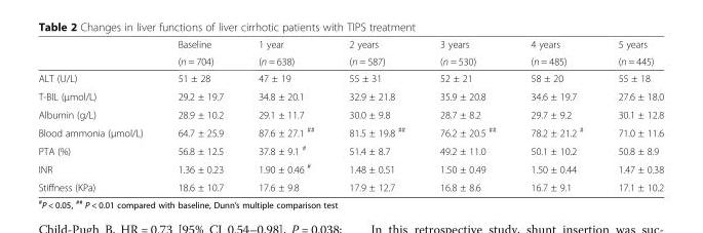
<table><thead><tr><td rowspan="2"></td><td rowspan="2">Baseline (n = 704)</td><td rowspan="2">1 year (n = 638)</td><td rowspan="2">2 years (n = 587)</td><td rowspan="2">3 years (n = 530)</td><td rowspan="2">4 years (n = 485)</td><td rowspan="2">5 years (n = 445)</td></tr><tr></tr></thead><tbody><tr><td>ALT (U/L)</td><td>51 ± 28</td><td>47 ± 19</td><td>55 ± 31</td><td>52 ± 21</td><td>58 ± 20</td><td>55 ± 18</td></tr><tr><td>T-BIL (μmol/L)</td><td>29.2 ± 19.7</td><td>34.8 ± 20.1</td><td>32.9 ± 21.8</td><td>35.9 ± 20.8</td><td>34.6 ± 19.7</td><td>27.6 ± 18.0</td></tr><tr><td>Albumin (g/L)</td><td>28.9 ± 10.2</td><td>29.1 ± 11.7</td><td>30.0 ± 9.8</td><td>28.7 ± 8.2</td><td>29.7 ± 9.2</td><td>30.1 ± 12.8</td></tr><tr><td>Blood ammonia (μmol/L)</td><td>64.7 ± 25.9</td><td>87.6 ± 27.1 <sup>##</sup></td><td>81.5 ± 19.8 <sup>##</sup></td><td>76.2 ± 20.5 <sup>##</sup></td><td>78.2 ± 21.2 <sup>#</sup></td><td>71.0 ± 11.6</td></tr><tr><td>PTA (%)</td><td>56.8 ± 12.5</td><td>37.8 ± 9.1 <sup>#</sup></td><td>51.4 ± 8.7</td><td>49.2 ± 11.0</td><td>50.1 ± 10.2</td><td>50.8 ± 8.9</td></tr><tr><td>INR</td><td>1.36 ± 0.23</td><td>1.90 ± 0.46 <sup>#</sup></td><td>1.48 ± 0.51</td><td>1.50 ± 0.49</td><td>1.50 ± 0.44</td><td>1.47 ± 0.38</td></tr><tr><td>Stiffness (KPa)</td><td>18.6 ± 10.7</td><td>17.6 ± 9.8</td><td>17.9 ± 12.7</td><td>16.8 ± 8.6</td><td>16.7 ± 9.1</td><td>17.1 ± 10.2</td></tr></tbody></table>